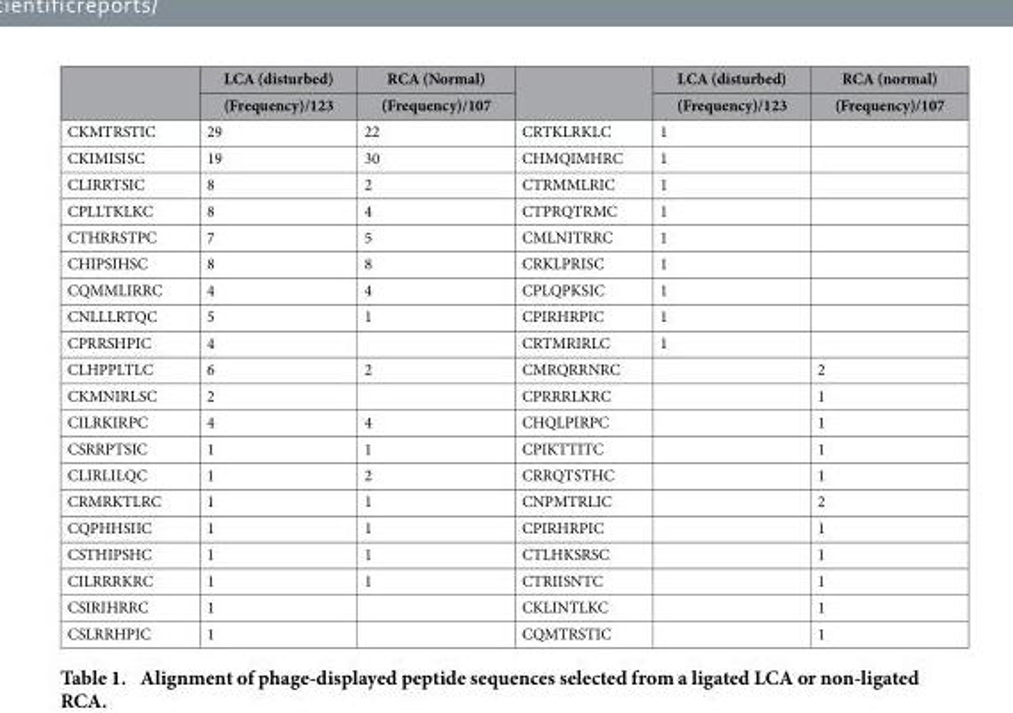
<table><thead><tr><td rowspan="2"></td><td rowspan="2">LCA (disturbed) (Frequency)/123</td><td rowspan="2">RCA (Normal) (Frequency)/107</td><td rowspan="2"></td><td rowspan="2">LCA (disturbed) (Frequency)/123</td><td rowspan="2">RCA (normal) (Frequency)/107</td></tr><tr></tr></thead><tbody><tr><td>CKMTRSTIC</td><td>29</td><td>22</td><td>CRTKLRKLC</td><td>1</td><td></td></tr><tr><td>CKIMISISC</td><td>19</td><td>30</td><td>CHMQIMHRC</td><td>1</td><td></td></tr><tr><td>CLIRRTSIC</td><td>8</td><td>2</td><td>CTRMMLRIC</td><td>1</td><td></td></tr><tr><td>CPLLTKLKC</td><td>8</td><td>4</td><td>CTPRQTRMC</td><td>1</td><td></td></tr><tr><td>CTHRRSTPC</td><td>7</td><td>5</td><td>CMLNITRRC</td><td>1</td><td></td></tr><tr><td>CHIPSIHSC</td><td>8</td><td>8</td><td>CRKLPRISC</td><td>1</td><td></td></tr><tr><td>CQMMLIRRC</td><td>4</td><td>4</td><td>CPLQPKSIC</td><td>1</td><td></td></tr><tr><td>CNLLLRTQC</td><td>5</td><td>1</td><td>CPIRHRPIC</td><td>1</td><td></td></tr><tr><td>CPRRSHPIC</td><td>4</td><td></td><td>CRTMRIRLC</td><td>1</td><td></td></tr><tr><td>CLHPPLTLC</td><td>6</td><td>2</td><td>CMRQRRNRC</td><td></td><td>2</td></tr><tr><td>CKMNIRLSC</td><td>2</td><td></td><td>CPRRRLKRC</td><td></td><td>1</td></tr><tr><td>CILRKIRPC</td><td>4</td><td>4</td><td>CHQLPIRPC</td><td></td><td>1</td></tr><tr><td>CSRRPTSIC</td><td>1</td><td>1</td><td>CPIKTTITC</td><td></td><td>1</td></tr><tr><td>CLIRLILQC</td><td>1</td><td>2</td><td>CRRQTSTHC</td><td></td><td>1</td></tr><tr><td>CRMRKTLRC</td><td>1</td><td>1</td><td>CNPMTRLIC</td><td></td><td>2</td></tr><tr><td>CQPHHSIIC</td><td>1</td><td>1</td><td>CPIRHRPIC</td><td></td><td>1</td></tr><tr><td>CSTHIPSHC</td><td>1</td><td>1</td><td>CTLHKSRSC</td><td></td><td>1</td></tr><tr><td>CILRRRKRC</td><td>1</td><td>1</td><td>CTRIISNTC</td><td></td><td>1</td></tr><tr><td>CSIRIHRRC</td><td>1</td><td></td><td>CKLINTLKC</td><td></td><td>1</td></tr><tr><td>CSLRRHPIC</td><td>1</td><td></td><td>CQMTRSTIC</td><td></td><td>1</td></tr></tbody></table>